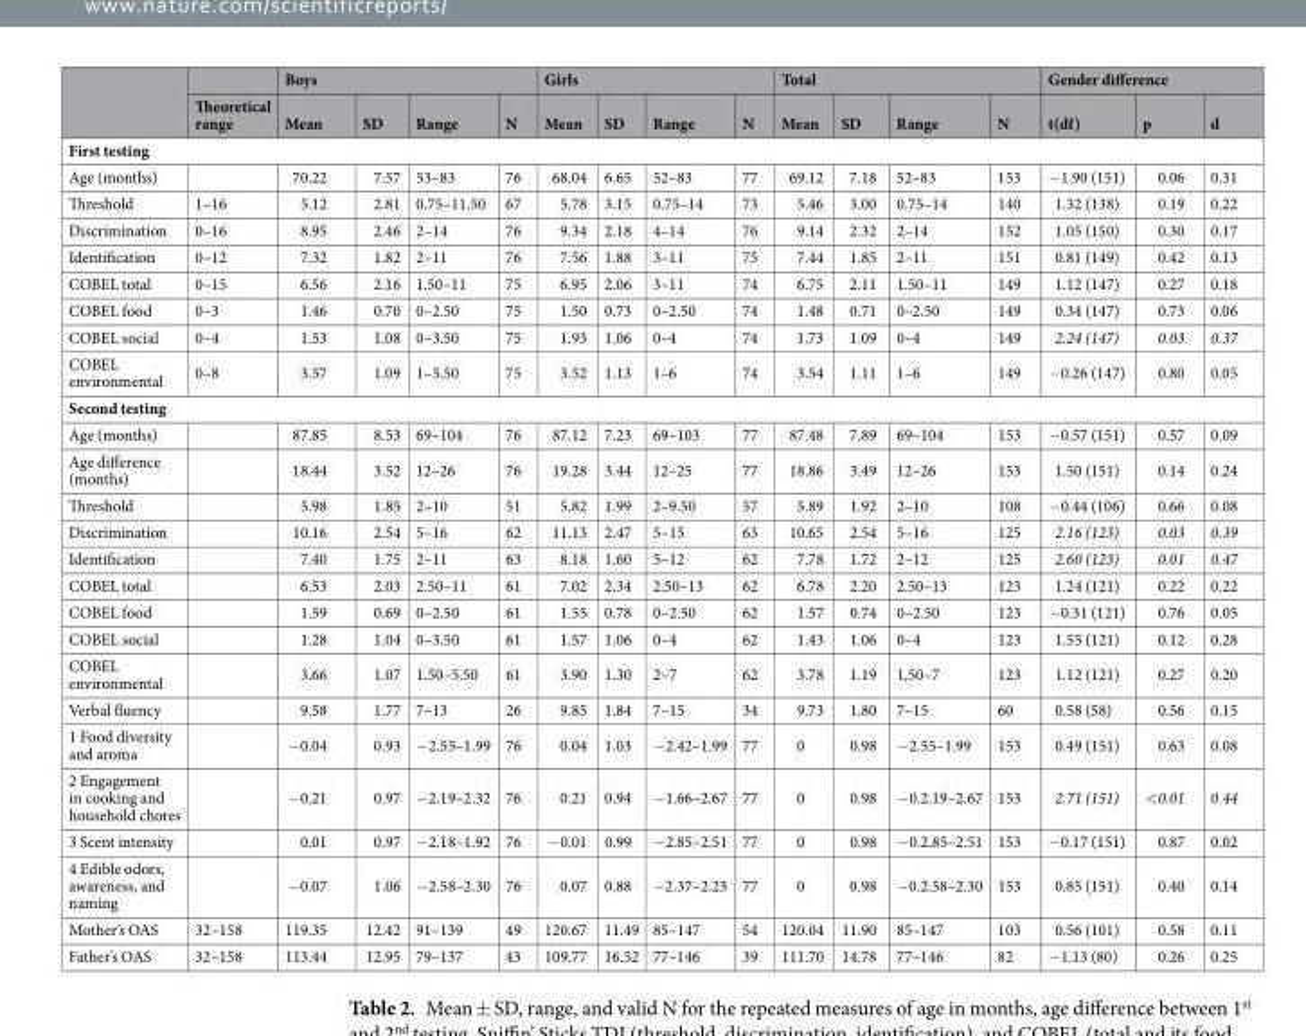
<table><thead><tr><td rowspan="2"></td><td rowspan="2">Theoretical range</td><td colspan="4">Boys</td><td colspan="4">Girls</td><td colspan="4">Total</td><td colspan="3">Gender difference</td></tr><tr><td>Mean</td><td>SD</td><td>Range</td><td>N</td><td>Mean</td><td>SD</td><td>Range</td><td>N</td><td>Mean</td><td>SD</td><td>Range</td><td>N</td><td>t(df)</td><td>p</td><td>d</td></tr></thead><tbody><tr><td colspan="17">First testing</td></tr><tr><td>Age (months)</td><td></td><td>70.22</td><td>7.57</td><td>53–83</td><td>76</td><td>68.04</td><td>6.65</td><td>52–83</td><td>77</td><td>69.12</td><td>7.18</td><td>52–83</td><td>153</td><td>−1.90 (151)</td><td>0.06</td><td>0.31</td></tr><tr><td>Threshold</td><td>1–16</td><td>5.12</td><td>2.81</td><td>0.75–11.50</td><td>67</td><td>5.78</td><td>3.15</td><td>0.75–14</td><td>73</td><td>5.46</td><td>3.00</td><td>0.75–14</td><td>140</td><td>1.32 (138)</td><td>0.19</td><td>0.22</td></tr><tr><td>Discrimination</td><td>0–16</td><td>8.95</td><td>2.46</td><td>2–14</td><td>76</td><td>9.34</td><td>2.18</td><td>4–14</td><td>76</td><td>9.14</td><td>2.32</td><td>2–14</td><td>152</td><td>1.05 (150)</td><td>0.30</td><td>0.17</td></tr><tr><td>Identification</td><td>0–12</td><td>7.32</td><td>1.82</td><td>2–11</td><td>76</td><td>7.56</td><td>1.88</td><td>3–11</td><td>75</td><td>7.44</td><td>1.85</td><td>2–11</td><td>151</td><td>0.81 (149)</td><td>0.42</td><td>0.13</td></tr><tr><td>COBEL total</td><td>0–15</td><td>6.56</td><td>2.16</td><td>1.50–11</td><td>75</td><td>6.95</td><td>2.06</td><td>3–11</td><td>74</td><td>6.75</td><td>2.11</td><td>1.50–11</td><td>149</td><td>1.12 (147)</td><td>0.27</td><td>0.18</td></tr><tr><td>COBEL food</td><td>0–3</td><td>1.46</td><td>0.70</td><td>0–2.50</td><td>75</td><td>1.50</td><td>0.73</td><td>0–2.50</td><td>74</td><td>1.48</td><td>0.71</td><td>0–2.50</td><td>149</td><td>0.34 (147)</td><td>0.73</td><td>0.06</td></tr><tr><td>COBEL social</td><td>0–4</td><td>1.53</td><td>1.08</td><td>0–3.50</td><td>75</td><td>1.93</td><td>1.06</td><td>0–4</td><td>74</td><td>1.73</td><td>1.09</td><td>0–4</td><td>149</td><td>2.24 (147)</td><td>0.03</td><td>0.37</td></tr><tr><td>COBEL environmental</td><td>0–8</td><td>3.57</td><td>1.09</td><td>1–5.50</td><td>75</td><td>3.52</td><td>1.13</td><td>1–6</td><td>74</td><td>3.54</td><td>1.11</td><td>1–6</td><td>149</td><td>−0.26 (147)</td><td>0.80</td><td>0.05</td></tr><tr><td colspan="17">Second testing</td></tr><tr><td>Age (months)</td><td></td><td>87.85</td><td>8.53</td><td>69–104</td><td>76</td><td>87.12</td><td>7.23</td><td>69–103</td><td>77</td><td>87.48</td><td>7.89</td><td>69–104</td><td>153</td><td>−0.57 (151)</td><td>0.57</td><td>0.09</td></tr><tr><td>Age difference (months)</td><td></td><td>18.44</td><td>3.52</td><td>12–26</td><td>76</td><td>19.28</td><td>3.44</td><td>12–25</td><td>77</td><td>18.86</td><td>3.49</td><td>12–26</td><td>153</td><td>1.50 (151)</td><td>0.14</td><td>0.24</td></tr><tr><td>Threshold</td><td></td><td>5.98</td><td>1.85</td><td>2–10</td><td>51</td><td>5.82</td><td>1.99</td><td>2–9.50</td><td>57</td><td>5.89</td><td>1.92</td><td>2–10</td><td>108</td><td>−0.44 (106)</td><td>0.66</td><td>0.08</td></tr><tr><td>Discrimination</td><td></td><td>10.16</td><td>2.54</td><td>5–16</td><td>62</td><td>11.13</td><td>2.47</td><td>5–15</td><td>63</td><td>10.65</td><td>2.54</td><td>5–16</td><td>125</td><td>2.16 (123)</td><td>0.03</td><td>0.39</td></tr><tr><td>Identification</td><td></td><td>7.40</td><td>1.75</td><td>2–11</td><td>63</td><td>8.18</td><td>1.60</td><td>5–12</td><td>62</td><td>7.78</td><td>1.72</td><td>2–12</td><td>125</td><td>2.60 (123)</td><td>0.01</td><td>0.47</td></tr><tr><td>COBEL total</td><td></td><td>6.53</td><td>2.03</td><td>2.50–11</td><td>61</td><td>7.02</td><td>2.34</td><td>2.50–13</td><td>62</td><td>6.78</td><td>2.20</td><td>2.50–13</td><td>123</td><td>1.24 (121)</td><td>0.22</td><td>0.22</td></tr><tr><td>COBEL food</td><td></td><td>1.59</td><td>0.69</td><td>0–2.50</td><td>61</td><td>1.55</td><td>0.78</td><td>0–2.50</td><td>62</td><td>1.57</td><td>0.74</td><td>0–2.50</td><td>123</td><td>−0.31 (121)</td><td>0.76</td><td>0.05</td></tr><tr><td>COBEL social</td><td></td><td>1.28</td><td>1.04</td><td>0–3.50</td><td>61</td><td>1.57</td><td>1.06</td><td>0–4</td><td>62</td><td>1.43</td><td>1.06</td><td>0–4</td><td>123</td><td>1.55 (121)</td><td>0.12</td><td>0.28</td></tr><tr><td>COBEL environmental</td><td></td><td>3.66</td><td>1.07</td><td>1.50–5.50</td><td>61</td><td>3.90</td><td>1.30</td><td>2–7</td><td>62</td><td>3.78</td><td>1.19</td><td>1,50–7</td><td>123</td><td>1.12 (121)</td><td>0.27</td><td>0.20</td></tr><tr><td>Verbal fluency</td><td></td><td>9.58</td><td>1.77</td><td>7–13</td><td>26</td><td>9.85</td><td>1.84</td><td>7–15</td><td>34</td><td>9.73</td><td>1.80</td><td>7–15</td><td>60</td><td>0.58 (58)</td><td>0.56</td><td>0.15</td></tr><tr><td>1 Food diversity and aroma</td><td></td><td>−0.04</td><td>0.93</td><td>−2.55–1.99</td><td>76</td><td>0.04</td><td>1.03</td><td>−2.42–1.99</td><td>77</td><td>0</td><td>0.98</td><td>−2.55–1.99</td><td>153</td><td>0.49 (151)</td><td>0.63</td><td>0.08</td></tr><tr><td>2 Engagement in cooking and household chores</td><td></td><td>−0.21</td><td>0.97</td><td>−2.19–2.32</td><td>76</td><td>0.21</td><td>0.94</td><td>−1.66–2.67</td><td>77</td><td>0</td><td>0.98</td><td>−0.2.19–2.67</td><td>153</td><td>2.71 (151)</td><td>&lt;0.01</td><td>0.44</td></tr><tr><td>3 Scent intensity</td><td></td><td>0.01</td><td>0.97</td><td>−2.18–1.92</td><td>76</td><td>−0.01</td><td>0.99</td><td>−2.85–2.51</td><td>77</td><td>0</td><td>0.98</td><td>−0.2.85–2.51</td><td>153</td><td>−0.17 (151)</td><td>0.87</td><td>0.02</td></tr><tr><td>4 Edible odors, awareness, and naming</td><td></td><td>−0.07</td><td>1.06</td><td>−2.58–2.30</td><td>76</td><td>0.07</td><td>0.88</td><td>−2.37–2.23</td><td>77</td><td>0</td><td>0.98</td><td>−0.2.58–2.30</td><td>153</td><td>0.85 (151)</td><td>0.40</td><td>0.14</td></tr><tr><td>Mother’s OAS</td><td>32–158</td><td>119.35</td><td>12.42</td><td>91–139</td><td>49</td><td>120.67</td><td>11.49</td><td>85–147</td><td>54</td><td>120.04</td><td>11.90</td><td>85–147</td><td>103</td><td>0.56 (101)</td><td>0.58</td><td>0.11</td></tr><tr><td>Father’s OAS</td><td>32–158</td><td>113.44</td><td>12.95</td><td>79–137</td><td>43</td><td>109.77</td><td>16.52</td><td>77–146</td><td>39</td><td>111.70</td><td>14.78</td><td>77–146</td><td>82</td><td>−1.13 (80)</td><td>0.26</td><td>0.25</td></tr></tbody></table>